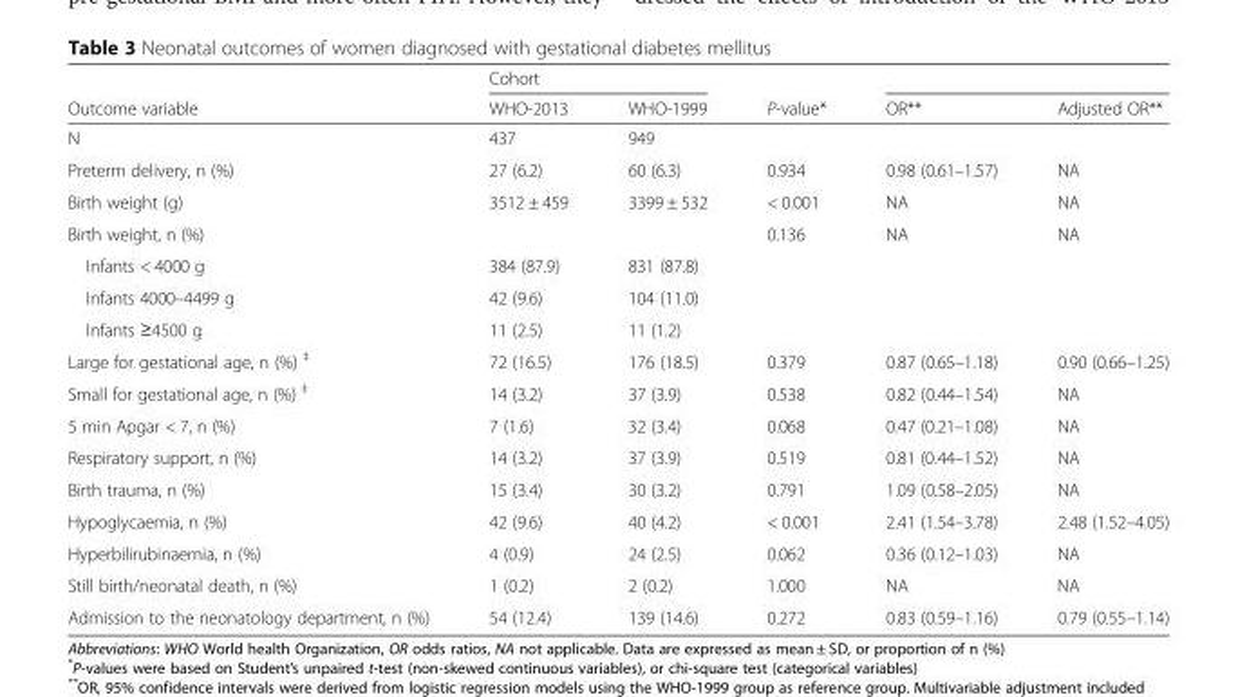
<table><thead><tr><td rowspan="2">Outcome variable</td><td colspan="2">Cohort</td><td rowspan="2">P-value*</td><td rowspan="2">OR**</td><td rowspan="2">Adjusted OR**</td></tr><tr><td>WHO-2013</td><td>WHO-1999</td></tr></thead><tbody><tr><td>N</td><td>437</td><td>949</td><td></td><td></td><td></td></tr><tr><td>Preterm delivery, n (%)</td><td>27 (6.2)</td><td>60 (6.3)</td><td>0.934</td><td>0.98 (0.61–1.57)</td><td>NA</td></tr><tr><td>Birth weight (g)</td><td>3512 ± 459</td><td>3399 ± 532</td><td>&lt; 0.001</td><td>NA</td><td>NA</td></tr><tr><td>Birth weight, n (%)</td><td></td><td></td><td>0.136</td><td>NA</td><td>NA</td></tr><tr><td>Infants &lt; 4000 g</td><td>384 (87.9)</td><td>831 (87.8)</td><td></td><td></td><td></td></tr><tr><td>Infants 4000–4499 g</td><td>42 (9.6)</td><td>104 (11.0)</td><td></td><td></td><td></td></tr><tr><td>Infants ≥4500 g</td><td>11 (2.5)</td><td>11 (1.2)</td><td></td><td></td><td></td></tr><tr><td>Large for gestational age, n (%) <sup>‡</sup></td><td>72 (16.5)</td><td>176 (18.5)</td><td>0.379</td><td>0.87 (0.65–1.18)</td><td>0.90 (0.66–1.25)</td></tr><tr><td>Small for gestational age, n (%) <sup>‡</sup></td><td>14 (3.2)</td><td>37 (3.9)</td><td>0.538</td><td>0.82 (0.44–1.54)</td><td>NA</td></tr><tr><td>5 min Apgar &lt; 7, n (%)</td><td>7 (1.6)</td><td>32 (3.4)</td><td>0.068</td><td>0.47 (0.21–1.08)</td><td>NA</td></tr><tr><td>Respiratory support, n (%)</td><td>14 (3.2)</td><td>37 (3.9)</td><td>0.519</td><td>0.81 (0.44–1.52)</td><td>NA</td></tr><tr><td>Birth trauma, n (%)</td><td>15 (3.4)</td><td>30 (3.2)</td><td>0.791</td><td>1.09 (0.58–2.05)</td><td>NA</td></tr><tr><td>Hypoglycaemia, n (%)</td><td>42 (9.6)</td><td>40 (4.2)</td><td>&lt; 0.001</td><td>2.41 (1.54–3.78)</td><td>2.48 (1.52–4.05)</td></tr><tr><td>Hyperbilirubinaemia, n (%)</td><td>4 (0.9)</td><td>24 (2.5)</td><td>0.062</td><td>0.36 (0.12–1.03)</td><td>NA</td></tr><tr><td>Still birth/neonatal death, n (%)</td><td>1 (0.2)</td><td>2 (0.2)</td><td>1.000</td><td>NA</td><td>NA</td></tr><tr><td>Admission to the neonatology department, n (%)</td><td>54 (12.4)</td><td>139 (14.6)</td><td>0.272</td><td>0.83 (0.59–1.16)</td><td>0.79 (0.55–1.14)</td></tr></tbody></table>